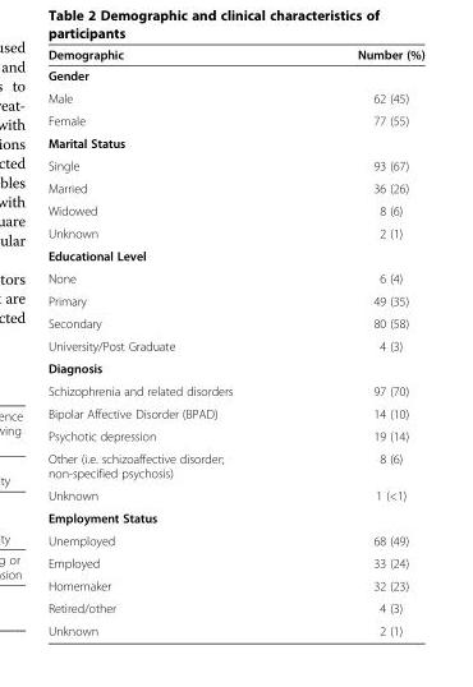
<table><thead><tr><td>Demographic</td><td>Number (%)</td></tr></thead><tbody><tr><td colspan="2">Gender</td></tr><tr><td>Male</td><td>62 (45)</td></tr><tr><td>Female</td><td>77 (55)</td></tr><tr><td colspan="2">Marital Status</td></tr><tr><td>Single</td><td>93 (67)</td></tr><tr><td>Married</td><td>36 (26)</td></tr><tr><td>Widowed</td><td>8 (6)</td></tr><tr><td>Unknown</td><td>2 (1)</td></tr><tr><td colspan="2">Educational Level</td></tr><tr><td>None</td><td>6 (4)</td></tr><tr><td>Primary</td><td>49 (35)</td></tr><tr><td>Secondary</td><td>80 (58)</td></tr><tr><td>University/Post Graduate</td><td>4 (3)</td></tr><tr><td colspan="2">Diagnosis</td></tr><tr><td>Schizophrenia and related disorders</td><td>97 (70)</td></tr><tr><td>Bipolar Affective Disorder (BPAD)</td><td>14 (10)</td></tr><tr><td>Psychotic depression</td><td>19 (14)</td></tr><tr><td>Other (i.e. schizoaffective disorder; non-specified psychosis)</td><td>8 (6)</td></tr><tr><td>Unknown</td><td>1 (&lt;1)</td></tr><tr><td colspan="2">Employment Status</td></tr><tr><td>Unemployed</td><td>68 (49)</td></tr><tr><td>Employed</td><td>33 (24)</td></tr><tr><td>Homemaker</td><td>32 (23)</td></tr><tr><td>Retired/other</td><td>4 (3)</td></tr><tr><td>Unknown</td><td>2 (1)</td></tr></tbody></table>